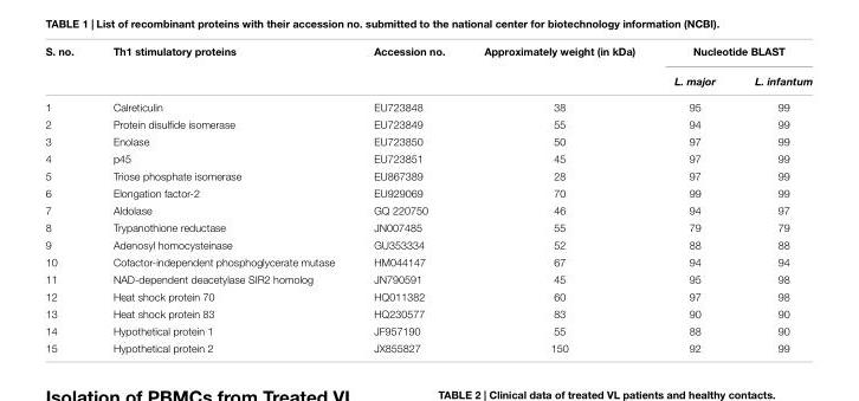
<table><thead><tr><td rowspan="2">S. no.</td><td rowspan="2">Th1 stimulatory proteins</td><td rowspan="2">Accession no.</td><td rowspan="2">Approximately weight (in kDa)</td><td colspan="2">Nucleotide BLAST</td></tr><tr><td>L. major</td><td>L. infantum</td></tr></thead><tbody><tr><td>1</td><td>Calreticulin</td><td>EU723848</td><td>38</td><td>95</td><td>99</td></tr><tr><td>2</td><td>Protein disulfide isomerase</td><td>EU723849</td><td>55</td><td>94</td><td>99</td></tr><tr><td>3</td><td>Enolase</td><td>EU723850</td><td>50</td><td>97</td><td>99</td></tr><tr><td>4</td><td>p45</td><td>EU723851</td><td>45</td><td>97</td><td>99</td></tr><tr><td>5</td><td>Triose phosphate isomerase</td><td>EU867389</td><td>28</td><td>97</td><td>99</td></tr><tr><td>6</td><td>Elongation factor-2</td><td>EU929069</td><td>70</td><td>99</td><td>99</td></tr><tr><td>7</td><td>Aldolase</td><td>GQ 220750</td><td>46</td><td>94</td><td>97</td></tr><tr><td>8</td><td>Trypanothione reductase</td><td>JN007485</td><td>55</td><td>79</td><td>79</td></tr><tr><td>9</td><td>Adenosyl homocysteinase</td><td>GU353334</td><td>52</td><td>88</td><td>88</td></tr><tr><td>10</td><td>Cofactor-independent phosphoglycerate mutase</td><td>HM044147</td><td>67</td><td>94</td><td>94</td></tr><tr><td>11</td><td>NAD-dependent deacetylase SIR2 homolog</td><td>JN790591</td><td>45</td><td>95</td><td>98</td></tr><tr><td>12</td><td>Heat shock protein 70</td><td>HQ011382</td><td>60</td><td>97</td><td>98</td></tr><tr><td>13</td><td>Heat shock protein 83</td><td>HQ230577</td><td>83</td><td>90</td><td>90</td></tr><tr><td>14</td><td>Hypothetical protein 1</td><td>JF957190</td><td>55</td><td>88</td><td>90</td></tr><tr><td>15</td><td>Hypothetical protein 2</td><td>JX855827</td><td>150</td><td>92</td><td>99</td></tr></tbody></table>